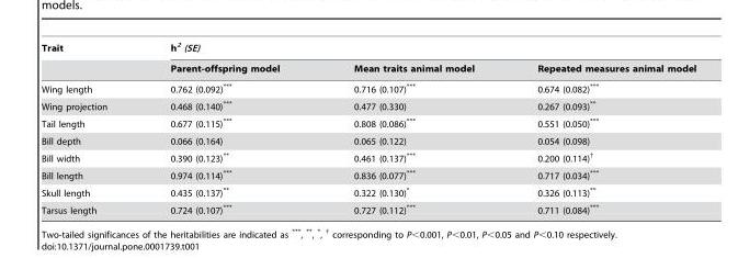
<table><thead><tr><td rowspan="2">Trait</td><td colspan="3">h<sup>2</sup> (SE)</td></tr><tr><td>Parent-offspring model</td><td>Mean traits animal model</td><td>Repeated measures animal model</td></tr></thead><tbody><tr><td>Wing length</td><td>0.762 (0.092)***</td><td>0.716 (0.107)***</td><td>0.674 (0.082)***</td></tr><tr><td>Wing projection</td><td>0.468 (0.140)***</td><td>0.477 (0.330)</td><td>0.267 (0.093)**</td></tr><tr><td>Tail length</td><td>0.677 (0.115)***</td><td>0.808 (0.086)***</td><td>0.551 (0.050)***</td></tr><tr><td>Bill depth</td><td>0.066 (0.164)</td><td>0.065 (0.122)</td><td>0.054 (0.098)</td></tr><tr><td>Bill width</td><td>0.390 (0.123)**</td><td>0.461 (0.137)***</td><td>0.200 (0.114)<sup>†</sup></td></tr><tr><td>Bill length</td><td>0.974 (0.114)***</td><td>0.836 (0.077)***</td><td>0.717 (0.034)***</td></tr><tr><td>Skull length</td><td>0.435 (0.137)**</td><td>0.322 (0.130)*</td><td>0.326 (0.113)**</td></tr><tr><td>Tarsus length</td><td>0.724 (0.107)***</td><td>0.727 (0.112)***</td><td>0.711 (0.084)***</td></tr></tbody></table>